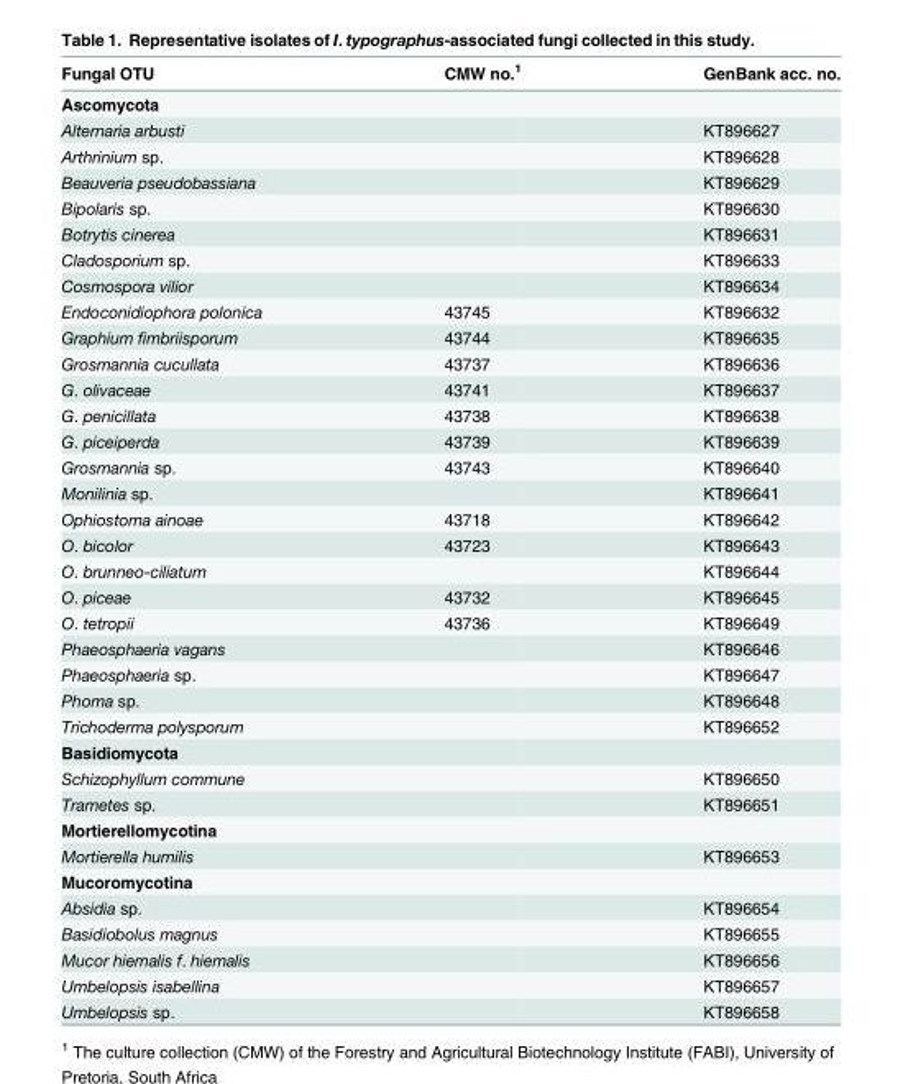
<table><thead><tr><td>Fungal OTU</td><td>CMW no.<sup>1</sup></td><td>GenBank acc. no.</td></tr></thead><tbody><tr><td colspan="3">Ascomycota</td></tr><tr><td>Alternaria arbusti</td><td></td><td>KT896627</td></tr><tr><td>Arthrinium sp.</td><td></td><td>KT896628</td></tr><tr><td>Beauveria pseudobassiana</td><td></td><td>KT896629</td></tr><tr><td>Bipolaris sp.</td><td></td><td>KT896630</td></tr><tr><td>Botrytis cinerea</td><td></td><td>KT896631</td></tr><tr><td>Cladosporium sp.</td><td></td><td>KT896633</td></tr><tr><td>Cosmospora vilior</td><td></td><td>KT896634</td></tr><tr><td>Endoconidiophora polonica</td><td>43745</td><td>KT896632</td></tr><tr><td>Graphium fimbriisporum</td><td>43744</td><td>KT896635</td></tr><tr><td>Grosmannia cucullata</td><td>43737</td><td>KT896636</td></tr><tr><td>G. olivaceae</td><td>43741</td><td>KT896637</td></tr><tr><td>G. penicillata</td><td>43738</td><td>KT896638</td></tr><tr><td>G. piceiperda</td><td>43739</td><td>KT896639</td></tr><tr><td>Grosmannia sp.</td><td>43743</td><td>KT896640</td></tr><tr><td>Monilinia sp.</td><td></td><td>KT896641</td></tr><tr><td>Ophiostoma ainoae</td><td>43718</td><td>KT896642</td></tr><tr><td>O. bicolor</td><td>43723</td><td>KT896643</td></tr><tr><td>O. brunneo-ciliatum</td><td></td><td>KT896644</td></tr><tr><td>O. piceae</td><td>43732</td><td>KT896645</td></tr><tr><td>O. tetropii</td><td>43736</td><td>KT896649</td></tr><tr><td>Phaeosphaeria vagans</td><td></td><td>KT896646</td></tr><tr><td>Phaeosphaeria sp.</td><td></td><td>KT896647</td></tr><tr><td>Phoma sp.</td><td></td><td>KT896648</td></tr><tr><td>Trichoderma polysporum</td><td></td><td>KT896652</td></tr><tr><td colspan="3">Basidiomycota</td></tr><tr><td>Schizophyllum commune</td><td></td><td>KT896650</td></tr><tr><td>Trametes sp.</td><td></td><td>KT896651</td></tr><tr><td colspan="3">Mortierellomycotina</td></tr><tr><td>Mortierella humilis</td><td></td><td>KT896653</td></tr><tr><td colspan="3">Mucoromycotina</td></tr><tr><td>Absidia sp.</td><td></td><td>KT896654</td></tr><tr><td>Basidiobolus magnus</td><td></td><td>KT896655</td></tr><tr><td>Mucor hiemalis f. hiemalis</td><td></td><td>KT896656</td></tr><tr><td>Umbelopsis isabellina</td><td></td><td>KT896657</td></tr><tr><td>Umbelopsis sp.</td><td></td><td>KT896658</td></tr></tbody></table>